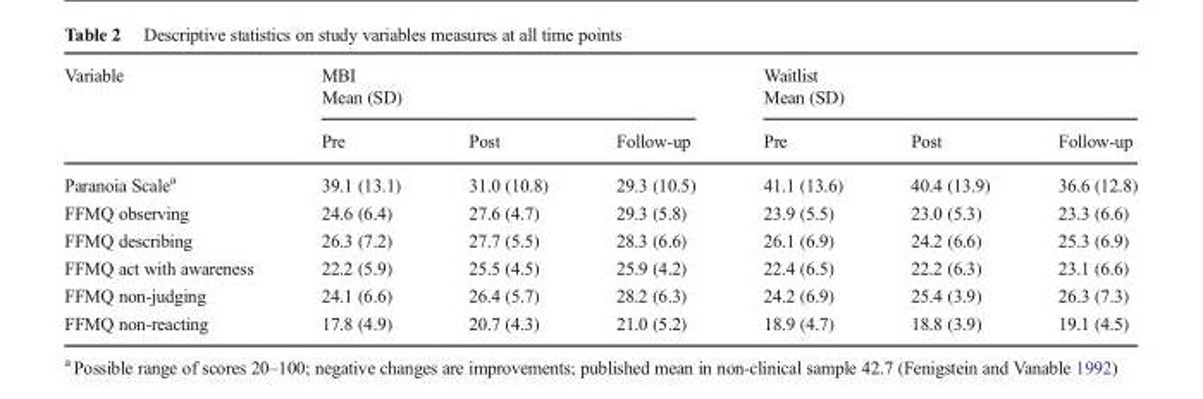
<table><thead><tr><td rowspan="2">Variable</td><td colspan="3">MBI Mean (SD)</td><td colspan="3">Waitlist Mean (SD)</td></tr><tr><td>Pre</td><td>Post</td><td>Follow-up</td><td>Pre</td><td>Post</td><td>Follow-up</td></tr></thead><tbody><tr><td>Paranoia Scale<sup>a</sup></td><td>39.1 (13.1)</td><td>31.0 (10.8)</td><td>29.3 (10.5)</td><td>41.1 (13.6)</td><td>40.4 (13.9)</td><td>36.6 (12.8)</td></tr><tr><td>FFMQ observing</td><td>24.6 (6.4)</td><td>27.6 (4.7)</td><td>29.3 (5.8)</td><td>23.9 (5.5)</td><td>23.0 (5.3)</td><td>23.3 (6.6)</td></tr><tr><td>FFMQ describing</td><td>26.3 (7.2)</td><td>27.7 (5.5)</td><td>28.3 (6.6)</td><td>26.1 (6.9)</td><td>24.2 (6.6)</td><td>25.3 (6.9)</td></tr><tr><td>FFMQ act with awareness</td><td>22.2 (5.9)</td><td>25.5 (4.5)</td><td>25.9 (4.2)</td><td>22.4 (6.5)</td><td>22.2 (6.3)</td><td>23.1 (6.6)</td></tr><tr><td>FFMQ non-judging</td><td>24.1 (6.6)</td><td>26.4 (5.7)</td><td>28.2 (6.3)</td><td>24.2 (6.9)</td><td>25.4 (3.9)</td><td>26.3 (7.3)</td></tr><tr><td>FFMQ non-reacting</td><td>17.8 (4.9)</td><td>20.7 (4.3)</td><td>21.0 (5.2)</td><td>18.9 (4.7)</td><td>18.8 (3.9)</td><td>19.1 (4.5)</td></tr></tbody></table>